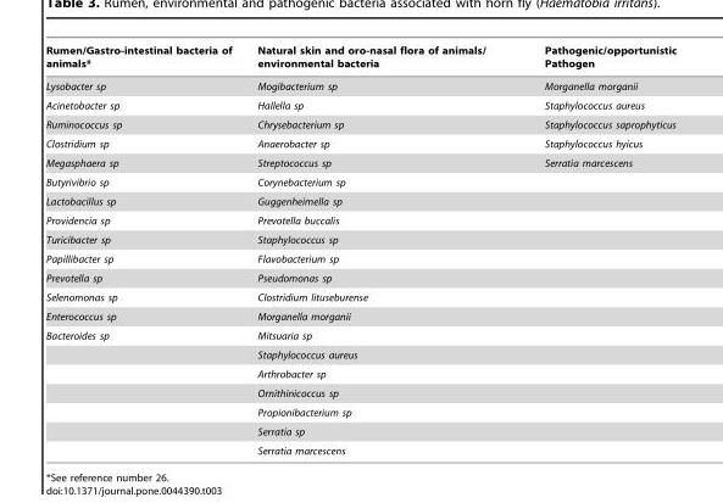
<table><thead><tr><td>Rumen/Gastro-intestinal bacteria of animals*</td><td>Natural skin and oro-nasal flora of animals/ environmental bacteria</td><td>Pathogenic/opportunistic Pathogen</td></tr></thead><tbody><tr><td>Lysobacter sp</td><td>Mogibacterium sp</td><td>Morganella morganii</td></tr><tr><td>Acinetobacter sp</td><td>Hallella sp</td><td>Staphylococcus aureus</td></tr><tr><td>Ruminococcus sp</td><td>Chrysebacterium sp</td><td>Staphylococcus saprophyticus</td></tr><tr><td>Clostridium sp</td><td>Anaerobacter sp</td><td>Staphylococcus hyicus</td></tr><tr><td>Megasphaera sp</td><td>Streptococcus sp</td><td>Serratia marcescens</td></tr><tr><td>Butyrivibrio sp</td><td>Corynebacterium sp</td><td></td></tr><tr><td>Lactobacillus sp</td><td>Guggenheimella sp</td><td></td></tr><tr><td>Providencia sp</td><td>Prevotella buccalis</td><td></td></tr><tr><td>Turicibacter sp</td><td>Staphylococcus sp</td><td></td></tr><tr><td>Papillibacter sp</td><td>Flavobacterium sp</td><td></td></tr><tr><td>Prevotella sp</td><td>Pseudomonas sp</td><td></td></tr><tr><td>Selenomonas sp</td><td>Clostridium lituseburense</td><td></td></tr><tr><td>Enterococcus sp</td><td>Morganella morganii</td><td></td></tr><tr><td rowspan="7">Bacteroides sp</td><td>Mitsuaria sp</td><td></td></tr><tr><td>Staphylococcus aureus</td><td></td></tr><tr><td>Arthrobacter sp</td><td></td></tr><tr><td>Ornithinicoccus sp</td><td></td></tr><tr><td>Propionibacterium sp</td><td></td></tr><tr><td>Serratia sp</td><td></td></tr><tr><td>Serratia marcescens</td><td></td></tr></tbody></table>